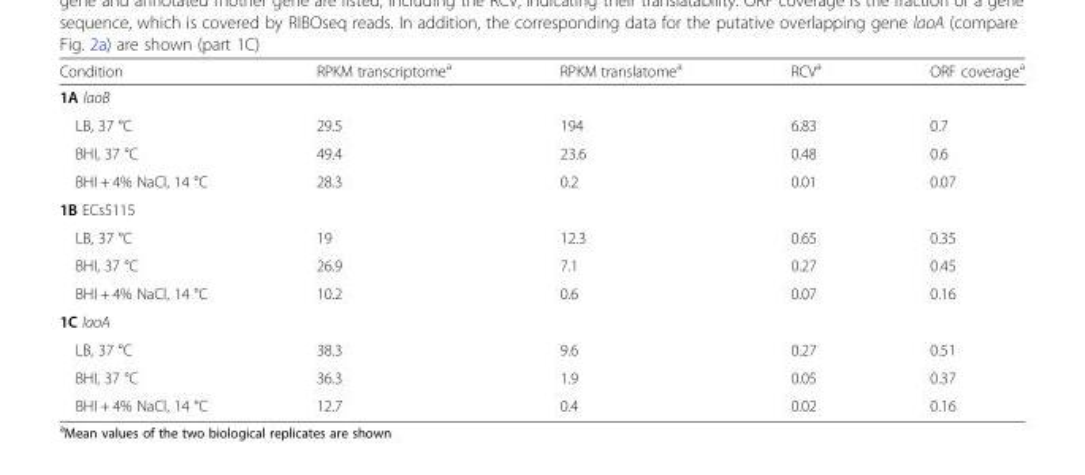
<table><thead><tr><td>Condition</td><td>RPKM transcriptome<sup>a</sup></td><td>RPKM translatome<sup>a</sup></td><td>RCV<sup>a</sup></td><td>ORF coverage<sup>a</sup></td></tr></thead><tbody><tr><td colspan="5">1A laoB</td></tr><tr><td>LB, 37 °C</td><td>29.5</td><td>194</td><td>6.83</td><td>0.7</td></tr><tr><td>BHI, 37 °C</td><td>49.4</td><td>23.6</td><td>0.48</td><td>0.6</td></tr><tr><td>BHI + 4% NaCl, 14 °C</td><td>28.3</td><td>0.2</td><td>0.01</td><td>0.07</td></tr><tr><td colspan="5">1B ECs5115</td></tr><tr><td>LB, 37 °C</td><td>19</td><td>12.3</td><td>0.65</td><td>0.35</td></tr><tr><td>BHI, 37 °C</td><td>26.9</td><td>7.1</td><td>0.27</td><td>0.45</td></tr><tr><td>BHI + 4% NaCl, 14 °C</td><td>10.2</td><td>0.6</td><td>0.07</td><td>0.16</td></tr><tr><td colspan="5">1C laoA</td></tr><tr><td>LB, 37 °C</td><td>38.3</td><td>9.6</td><td>0.27</td><td>0.51</td></tr><tr><td>BHI, 37 °C</td><td>36.3</td><td>1.9</td><td>0.05</td><td>0.37</td></tr><tr><td>BHI + 4% NaCl, 14 °C</td><td>12.7</td><td>0.4</td><td>0.02</td><td>0.16</td></tr></tbody></table>